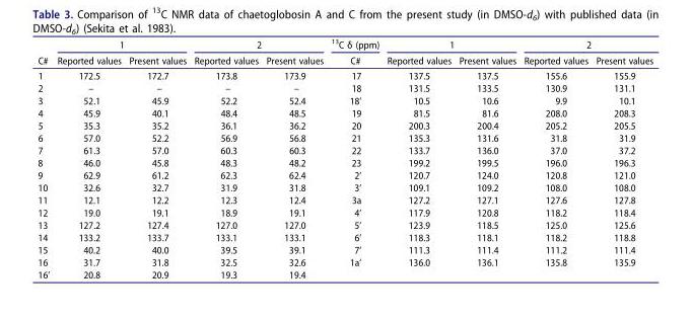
<table><thead><tr><td rowspan="2">C#</td><td colspan="2">1</td><td colspan="2">2</td><td rowspan="2"><sup>13</sup>C δ (ppm) C#</td><td colspan="2">1</td><td colspan="2">2</td></tr><tr><td>Reported values</td><td>Present values</td><td>Reported values</td><td>Present values</td><td>Reported values</td><td>Present values</td><td>Reported values</td><td>Present values</td></tr></thead><tbody><tr><td>1</td><td>172.5</td><td>172.7</td><td>173.8</td><td>173.9</td><td>17</td><td>137.5</td><td>137.5</td><td>155.6</td><td>155.9</td></tr><tr><td>2</td><td>–</td><td>–</td><td>–</td><td>–</td><td>18</td><td>131.5</td><td>133.5</td><td>130.9</td><td>131.1</td></tr><tr><td>3</td><td>52.1</td><td>45.9</td><td>52.2</td><td>52.4</td><td>18’</td><td>10.5</td><td>10.6</td><td>9.9</td><td>10.1</td></tr><tr><td>4</td><td>45.9</td><td>40.1</td><td>48.4</td><td>48.5</td><td>19</td><td>81.5</td><td>81.6</td><td>208.0</td><td>208.3</td></tr><tr><td>5</td><td>35.3</td><td>35.2</td><td>36.1</td><td>36.2</td><td>20</td><td>200.3</td><td>200.4</td><td>205.2</td><td>205.5</td></tr><tr><td>6</td><td>57.0</td><td>52.2</td><td>56.9</td><td>56.8</td><td>21</td><td>135.3</td><td>131.6</td><td>31.8</td><td>31.9</td></tr><tr><td>7</td><td>61.3</td><td>57.0</td><td>60.3</td><td>60.3</td><td>22</td><td>133.7</td><td>136.0</td><td>37.0</td><td>37.2</td></tr><tr><td>8</td><td>46.0</td><td>45.8</td><td>48.3</td><td>48.2</td><td>23</td><td>199.2</td><td>199.5</td><td>196.0</td><td>196.3</td></tr><tr><td>9</td><td>62.9</td><td>61.2</td><td>62.3</td><td>62.4</td><td>2’</td><td>120.7</td><td>124.0</td><td>120.8</td><td>121.0</td></tr><tr><td>10</td><td>32.6</td><td>32.7</td><td>31.9</td><td>31.8</td><td>3’</td><td>109.1</td><td>109.2</td><td>108.0</td><td>108.0</td></tr><tr><td>11</td><td>12.1</td><td>12.2</td><td>12.3</td><td>12.4</td><td>3a</td><td>127.2</td><td>127.1</td><td>127.6</td><td>127.8</td></tr><tr><td>12</td><td>19.0</td><td>19.1</td><td>18.9</td><td>19.1</td><td>4’</td><td>117.9</td><td>120.8</td><td>118.2</td><td>118.4</td></tr><tr><td>13</td><td>127.2</td><td>127.4</td><td>127.0</td><td>127.0</td><td>5’</td><td>123.9</td><td>118.5</td><td>125.0</td><td>125.6</td></tr><tr><td>14</td><td>133.2</td><td>133.7</td><td>133.1</td><td>133.1</td><td>6’</td><td>118.3</td><td>118.1</td><td>118.2</td><td>118.8</td></tr><tr><td>15</td><td>40.2</td><td>40.0</td><td>39.5</td><td>39.1</td><td>7’</td><td>111.3</td><td>111.4</td><td>111.2</td><td>111.4</td></tr><tr><td>16</td><td>31.7</td><td>31.8</td><td>32.5</td><td>32.6</td><td>1a’</td><td>136.0</td><td>136.1</td><td>135.8</td><td>135.9</td></tr><tr><td>16’</td><td>20.8</td><td>20.9</td><td>19.3</td><td>19.4</td><td></td><td></td><td></td><td></td><td></td></tr></tbody></table>